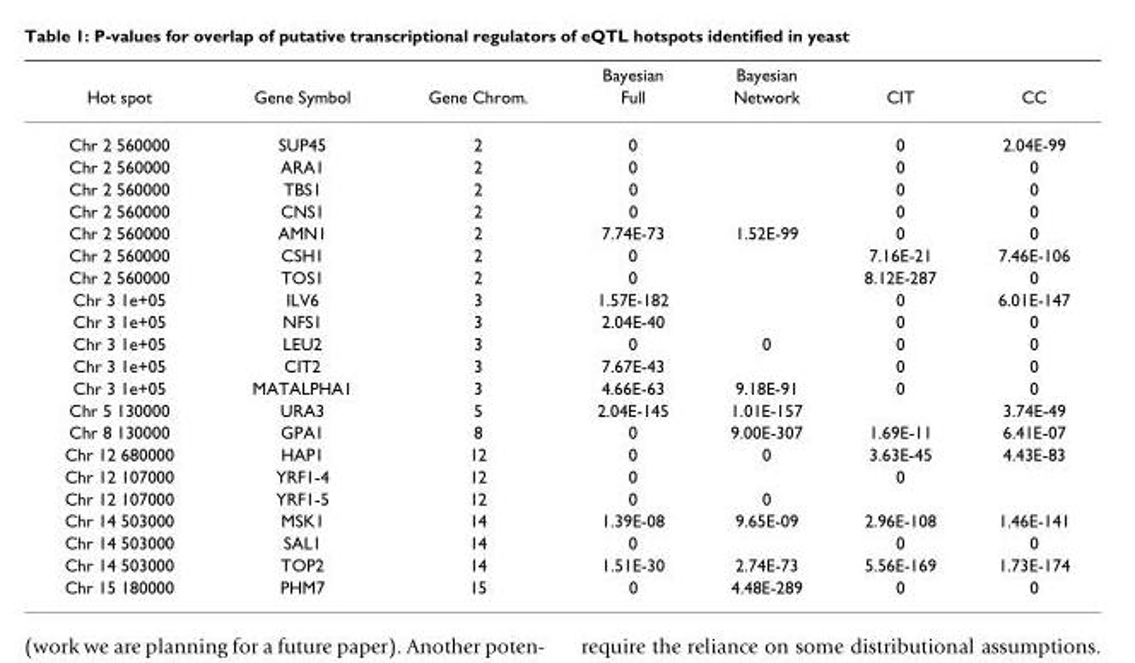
<table><thead><tr><td rowspan="2">Hot spot</td><td rowspan="2">Gene Symbol</td><td rowspan="2">Gene Chrom.</td><td rowspan="2">Bayesian Full</td><td rowspan="2">Bayesian Network</td><td rowspan="2">CIT</td><td rowspan="2">CC</td></tr><tr></tr></thead><tbody><tr><td>Chr 2 560000</td><td>SUP45</td><td>2</td><td>0</td><td></td><td>0</td><td>2.04E-99</td></tr><tr><td>Chr 2 560000</td><td>ARA1</td><td>2</td><td>0</td><td></td><td>0</td><td>0</td></tr><tr><td>Chr 2 560000</td><td>TBS1</td><td>2</td><td>0</td><td></td><td>0</td><td>0</td></tr><tr><td>Chr 2 560000</td><td>CNS1</td><td>2</td><td>0</td><td></td><td>0</td><td>0</td></tr><tr><td>Chr 2 560000</td><td>AMN1</td><td>2</td><td>7.74E-73</td><td>1.52E-99</td><td>0</td><td>0</td></tr><tr><td>Chr 2 560000</td><td>CSH1</td><td>2</td><td>0</td><td></td><td>7.16E-21</td><td>7.46E-106</td></tr><tr><td>Chr 2 560000</td><td>TOS1</td><td>2</td><td>0</td><td></td><td>8.12E-287</td><td>0</td></tr><tr><td>Chr 3 1e+05</td><td>ILV6</td><td>3</td><td>1.57E-182</td><td></td><td>0</td><td>6.01E-147</td></tr><tr><td>Chr 3 1e+05</td><td>NFS1</td><td>3</td><td>2.04E-40</td><td></td><td>0</td><td>0</td></tr><tr><td>Chr 3 1e+05</td><td>LEU2</td><td>3</td><td>0</td><td>0</td><td>0</td><td>0</td></tr><tr><td>Chr 3 1e+05</td><td>CIT2</td><td>3</td><td>7.67E-43</td><td></td><td>0</td><td>0</td></tr><tr><td>Chr 3 1e+05</td><td>MATALPHA1</td><td>3</td><td>4.66E-63</td><td>9.18E-91</td><td>0</td><td>0</td></tr><tr><td>Chr 5 130000</td><td>URA3</td><td>5</td><td>2.04E-145</td><td>1.01E-157</td><td></td><td>3.74E-49</td></tr><tr><td>Chr 8 130000</td><td>GPA1</td><td>8</td><td>0</td><td>9.00E-307</td><td>1.69E-11</td><td>6.41E-07</td></tr><tr><td>Chr 12 680000</td><td>HAP1</td><td>12</td><td>0</td><td>0</td><td>3.63E-45</td><td>4.43E-83</td></tr><tr><td>Chr 12 107000</td><td>YRF1-4</td><td>12</td><td>0</td><td></td><td>0</td><td></td></tr><tr><td>Chr 12 107000</td><td>YRF1-5</td><td>12</td><td>0</td><td>0</td><td></td><td></td></tr><tr><td>Chr 14 503000</td><td>MSK1</td><td>14</td><td>1.39E-08</td><td>9.65E-09</td><td>2.96E-108</td><td>1.46E-141</td></tr><tr><td>Chr 14 503000</td><td>SAL1</td><td>14</td><td>0</td><td></td><td>0</td><td>0</td></tr><tr><td>Chr 14 503000</td><td>TOP2</td><td>14</td><td>1.51E-30</td><td>2.74E-73</td><td>5.56E-169</td><td>1.73E-174</td></tr><tr><td>Chr 15 180000</td><td>PHM7</td><td>15</td><td>0</td><td>4.48E-289</td><td>0</td><td>0</td></tr></tbody></table>